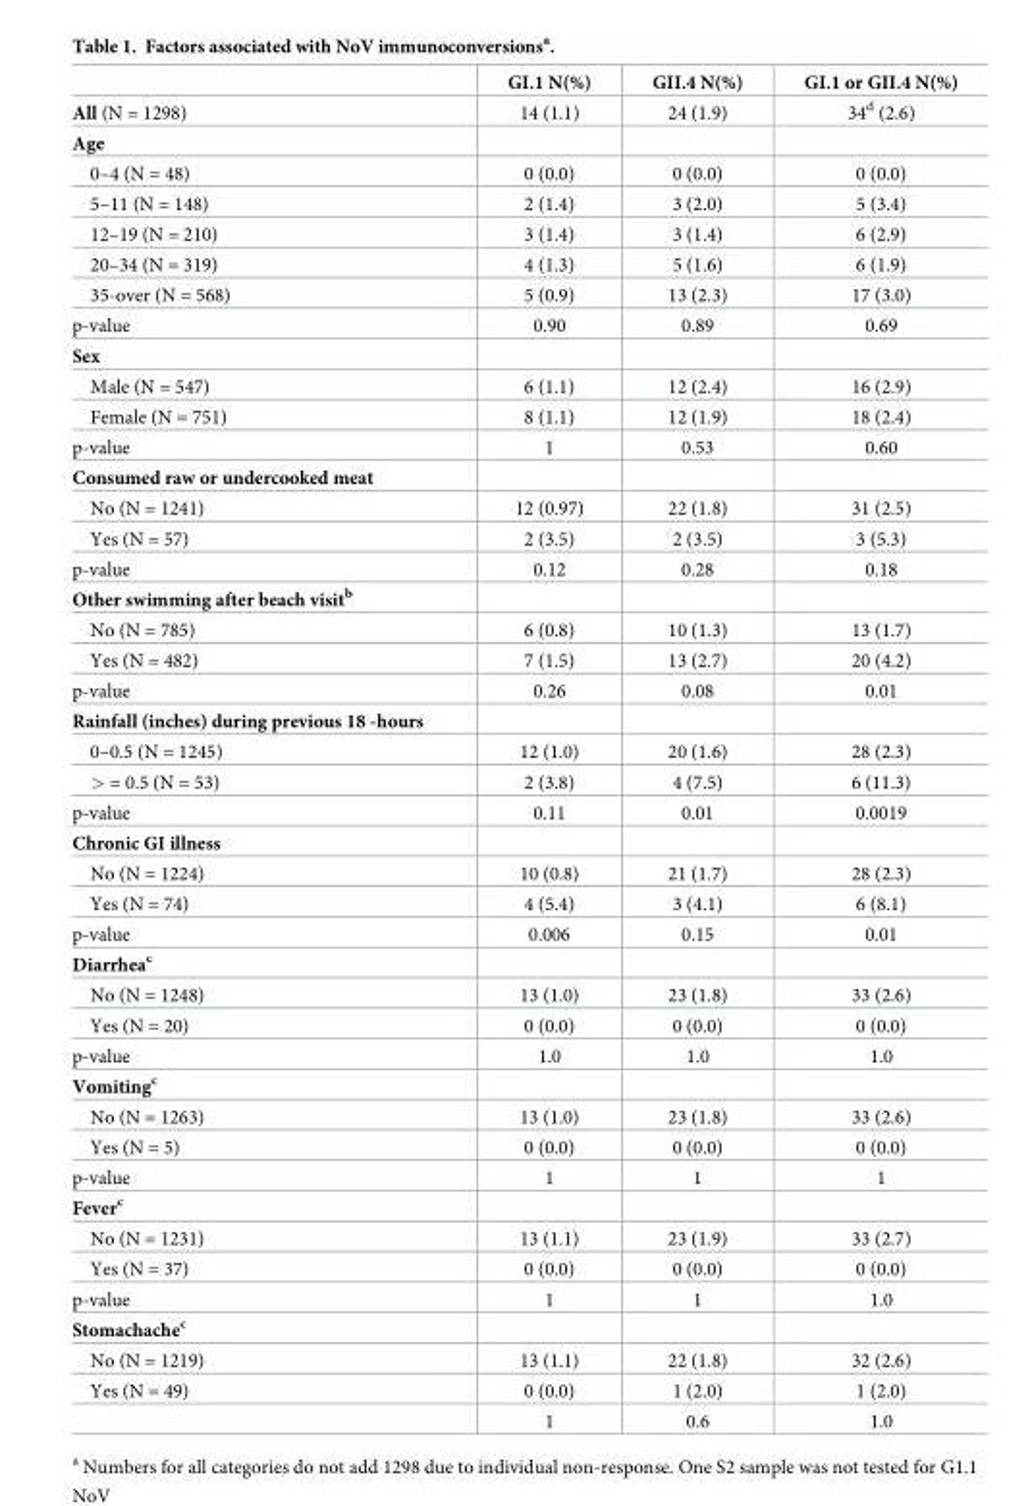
<table><thead><tr><td></td><td>GI.1 N(%)</td><td>GII.4 N(%)</td><td>GI.1 or GII.4 N(%)</td></tr></thead><tbody><tr><td>All (N = 1298)</td><td>14 (1.1)</td><td>24 (1.9)</td><td>34<sup>d</sup> (2.6)</td></tr><tr><td colspan="4">Age</td></tr><tr><td>0–4 (N = 48)</td><td>0 (0.0)</td><td>0 (0.0)</td><td>0 (0.0)</td></tr><tr><td>5–11 (N = 148)</td><td>2 (1.4)</td><td>3 (2.0)</td><td>5 (3.4)</td></tr><tr><td>12–19 (N = 210)</td><td>3 (1.4)</td><td>3 (1.4)</td><td>6 (2.9)</td></tr><tr><td>20–34 (N = 319)</td><td>4 (1.3)</td><td>5 (1.6)</td><td>6 (1.9)</td></tr><tr><td>35-over (N = 568)</td><td>5 (0.9)</td><td>13 (2.3)</td><td>17 (3.0)</td></tr><tr><td>p-value</td><td>0.90</td><td>0.89</td><td>0.69</td></tr><tr><td colspan="4">Sex</td></tr><tr><td>Male (N = 547)</td><td>6 (1.1)</td><td>12 (2.4)</td><td>16 (2.9)</td></tr><tr><td>Female (N = 751)</td><td>8 (1.1)</td><td>12 (1.9)</td><td>18 (2.4)</td></tr><tr><td>p-value</td><td>1</td><td>0.53</td><td>0.60</td></tr><tr><td colspan="4">Consumed raw or undercooked meat</td></tr><tr><td>No (N = 1241)</td><td>12 (0.97)</td><td>22 (1.8)</td><td>31 (2.5)</td></tr><tr><td>Yes (N = 57)</td><td>2 (3.5)</td><td>2 (3.5)</td><td>3 (5.3)</td></tr><tr><td>p-value</td><td>0.12</td><td>0.28</td><td>0.18</td></tr><tr><td colspan="4">Other swimming after beach visit<sup>b</sup></td></tr><tr><td>No (N = 785)</td><td>6 (0.8)</td><td>10 (1.3)</td><td>13 (1.7)</td></tr><tr><td>Yes (N = 482)</td><td>7 (1.5)</td><td>13 (2.7)</td><td>20 (4.2)</td></tr><tr><td>p-value</td><td>0.26</td><td>0.08</td><td>0.01</td></tr><tr><td colspan="4">Rainfall (inches) during previous 18 -hours</td></tr><tr><td>0–0.5 (N = 1245)</td><td>12 (1.0)</td><td>20 (1.6)</td><td>28 (2.3)</td></tr><tr><td>&gt; = 0.5 (N = 53)</td><td>2 (3.8)</td><td>4 (7.5)</td><td>6 (11.3)</td></tr><tr><td>p-value</td><td>0.11</td><td>0.01</td><td>0.0019</td></tr><tr><td colspan="4">Chronic GI illness</td></tr><tr><td>No (N = 1224)</td><td>10 (0.8)</td><td>21 (1.7)</td><td>28 (2.3)</td></tr><tr><td>Yes (N = 74)</td><td>4 (5.4)</td><td>3 (4.1)</td><td>6 (8.1)</td></tr><tr><td>p-value</td><td>0.006</td><td>0.15</td><td>0.01</td></tr><tr><td colspan="4">Diarrhea<sup>c</sup></td></tr><tr><td>No (N = 1248)</td><td>13 (1.0)</td><td>23 (1.8)</td><td>33 (2.6)</td></tr><tr><td>Yes (N = 20)</td><td>0 (0.0)</td><td>0 (0.0)</td><td>0 (0.0)</td></tr><tr><td>p-value</td><td>1.0</td><td>1.0</td><td>1.0</td></tr><tr><td colspan="4">Vomiting<sup>c</sup></td></tr><tr><td>No (N = 1263)</td><td>13 (1.0)</td><td>23 (1.8)</td><td>33 (2.6)</td></tr><tr><td>Yes (N = 5)</td><td>0 (0.0)</td><td>0 (0.0)</td><td>0 (0.0)</td></tr><tr><td>p-value</td><td>1</td><td>1</td><td>1</td></tr><tr><td colspan="4">Fever<sup>c</sup></td></tr><tr><td>No (N = 1231)</td><td>13 (1.1)</td><td>23 (1.9)</td><td>33 (2.7)</td></tr><tr><td>Yes (N = 37)</td><td>0 (0.0)</td><td>0 (0.0)</td><td>0 (0.0)</td></tr><tr><td>p-value</td><td>1</td><td>1</td><td>1.0</td></tr><tr><td colspan="4">Stomachache<sup>c</sup></td></tr><tr><td>No (N = 1219)</td><td>13 (1.1)</td><td>22 (1.8)</td><td>32 (2.6)</td></tr><tr><td rowspan="2">Yes (N = 49)</td><td>0 (0.0)</td><td>1 (2.0)</td><td>1 (2.0)</td></tr><tr><td>1</td><td>0.6</td><td>1.0</td></tr></tbody></table>